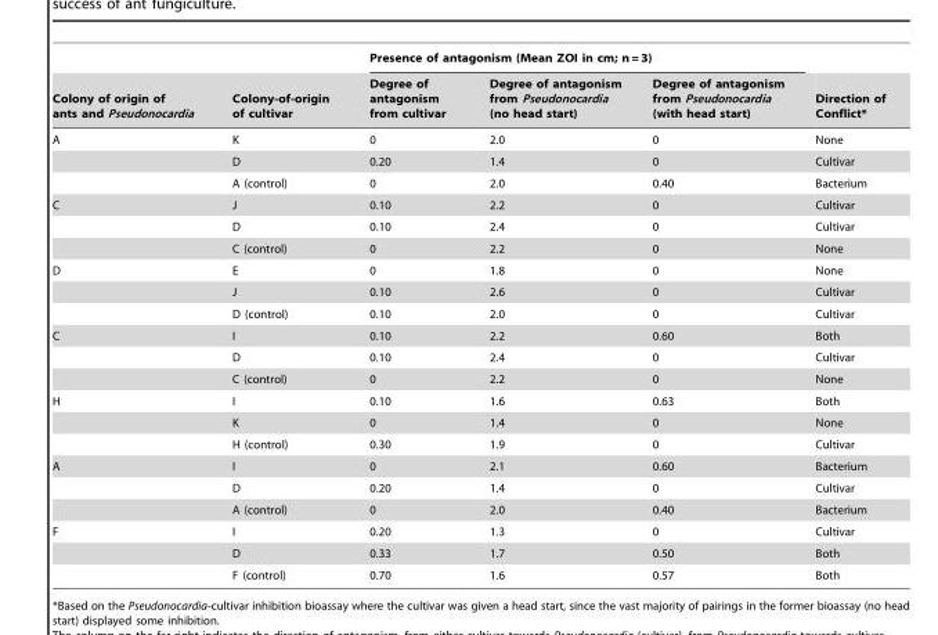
<table><thead><tr><td rowspan="2">Colony of origin of ants and Pseudonocardia</td><td rowspan="2">Colony-of-origin of cultivar</td><td colspan="3">Presence of antagonism (Mean ZOI in cm; n = 3)</td><td rowspan="2">Direction of Conflict*</td></tr><tr><td>Degree of antagonism from cultivar</td><td>Degree of antagonism from Pseudonocardia (no head start)</td><td>Degree of antagonism from Pseudonocardia (with head start)</td></tr></thead><tbody><tr><td rowspan="3">A</td><td>K</td><td>0</td><td>2.0</td><td>0</td><td>None</td></tr><tr><td>D</td><td>0.20</td><td>1.4</td><td>0</td><td>Cultivar</td></tr><tr><td>A (control)</td><td>0</td><td>2.0</td><td>0.40</td><td>Bacterium</td></tr><tr><td rowspan="3">C</td><td>J</td><td>0.10</td><td>2.2</td><td>0</td><td>Cultivar</td></tr><tr><td>D</td><td>0.10</td><td>2.4</td><td>0</td><td>Cultivar</td></tr><tr><td>C (control)</td><td>0</td><td>2.2</td><td>0</td><td>None</td></tr><tr><td rowspan="3">D</td><td>E</td><td>0</td><td>1.8</td><td>0</td><td>None</td></tr><tr><td>J</td><td>0.10</td><td>2.6</td><td>0</td><td>Cultivar</td></tr><tr><td>D (control)</td><td>0.10</td><td>2.0</td><td>0</td><td>Cultivar</td></tr><tr><td rowspan="3">C</td><td>I</td><td>0.10</td><td>2.2</td><td>0.60</td><td>Both</td></tr><tr><td>D</td><td>0.10</td><td>2.4</td><td>0</td><td>Cultivar</td></tr><tr><td>C (control)</td><td>0</td><td>2.2</td><td>0</td><td>None</td></tr><tr><td rowspan="3">H</td><td>I</td><td>0.10</td><td>1.6</td><td>0.63</td><td>Both</td></tr><tr><td>K</td><td>0</td><td>1.4</td><td>0</td><td>None</td></tr><tr><td>H (control)</td><td>0.30</td><td>1.9</td><td>0</td><td>Cultivar</td></tr><tr><td rowspan="3">A</td><td>I</td><td>0</td><td>2.1</td><td>0.60</td><td>Bacterium</td></tr><tr><td>D</td><td>0.20</td><td>1.4</td><td>0</td><td>Cultivar</td></tr><tr><td>A (control)</td><td>0</td><td>2.0</td><td>0.40</td><td>Bacterium</td></tr><tr><td rowspan="3">F</td><td>I</td><td>0.20</td><td>1.3</td><td>0</td><td>Cultivar</td></tr><tr><td>D</td><td>0.33</td><td>1.7</td><td>0.50</td><td>Both</td></tr><tr><td>F (control)</td><td>0.70</td><td>1.6</td><td>0.57</td><td>Both</td></tr></tbody></table>